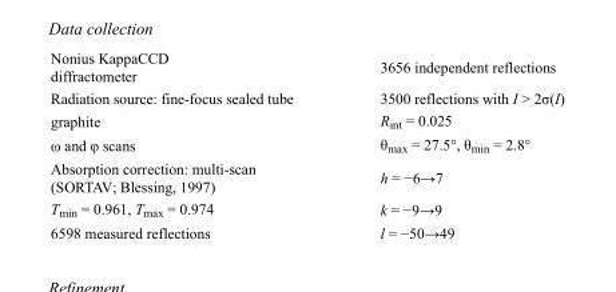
<table><tbody><tr><td>Nonius KappaCCD diffractometer</td><td>3656 independent reflections</td></tr><tr><td>Radiation source: fine-focus sealed tube</td><td>3500 reflections with I &gt; 2σ(I)</td></tr><tr><td>graphite</td><td>R<sub>int</sub> = 0.025</td></tr><tr><td>ω and φ scans</td><td>θ<sub>max</sub> = 27.5°, θ<sub>min</sub> = 2.8°</td></tr><tr><td>Absorption correction: multi-scan (SORTAV; Blessing, 1997)</td><td>h = −6→7</td></tr><tr><td>T<sub>min</sub> = 0.961, T<sub>max</sub> = 0.974</td><td>k = −9→9</td></tr><tr><td>6598 measured reflections</td><td>l = −50→49</td></tr></tbody></table>